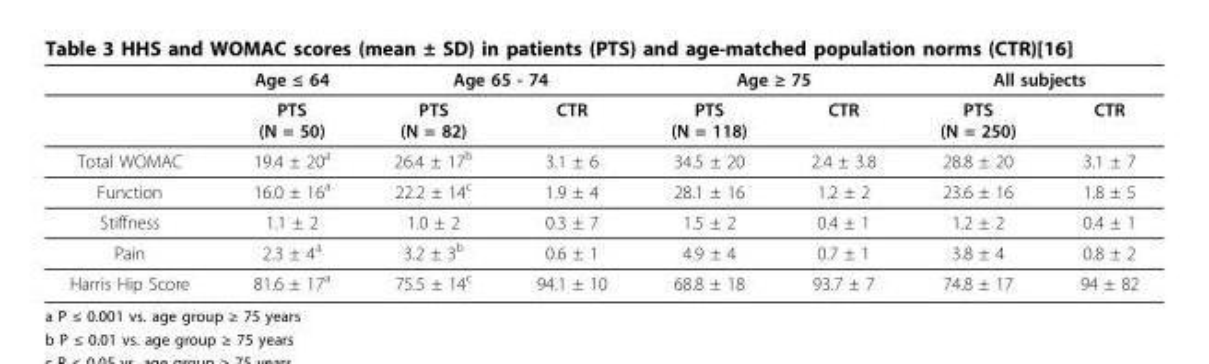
<table><thead><tr><td rowspan="2"></td><td rowspan="2">Age ≤ 64 PTS (N = 50)</td><td colspan="2">Age 65 - 74</td><td colspan="2">Age ≥ 75</td><td colspan="2">All subjects</td></tr><tr><td>PTS (N = 82)</td><td>CTR</td><td>PTS (N = 118)</td><td>CTR</td><td>PTS (N = 250)</td><td>CTR</td></tr></thead><tbody><tr><td>Total WOMAC</td><td>19.4 ± 20<sup>a</sup></td><td>26.4 ± 17<sup>b</sup></td><td>3.1 ± 6</td><td>34.5 ± 20</td><td>2.4 ± 3.8</td><td>28.8 ± 20</td><td>3.1 ± 7</td></tr><tr><td>Function</td><td>16.0 ± 16<sup>a</sup></td><td>22.2 ± 14<sup>c</sup></td><td>1.9 ± 4</td><td>28.1 ± 16</td><td>1.2 ± 2</td><td>23.6 ± 16</td><td>1.8 ± 5</td></tr><tr><td>Stiffness</td><td>1.1 ± 2</td><td>1.0 ± 2</td><td>0.3 ± 7</td><td>1.5 ± 2</td><td>0.4 ± 1</td><td>1.2 ± 2</td><td>0.4 ± 1</td></tr><tr><td>Pain</td><td>2.3 ± 4<sup>a</sup></td><td>3.2 ± 3<sup>b</sup></td><td>0.6 ± 1</td><td>4.9 ± 4</td><td>0.7 ± 1</td><td>3.8 ± 4</td><td>0.8 ± 2</td></tr><tr><td>Harris Hip Score</td><td>81.6 ± 17<sup>a</sup></td><td>75.5 ± 14<sup>c</sup></td><td>94.1 ± 10</td><td>68.8 ± 18</td><td>93.7 ± 7</td><td>74.8 ± 17</td><td>94 ± 82</td></tr></tbody></table>